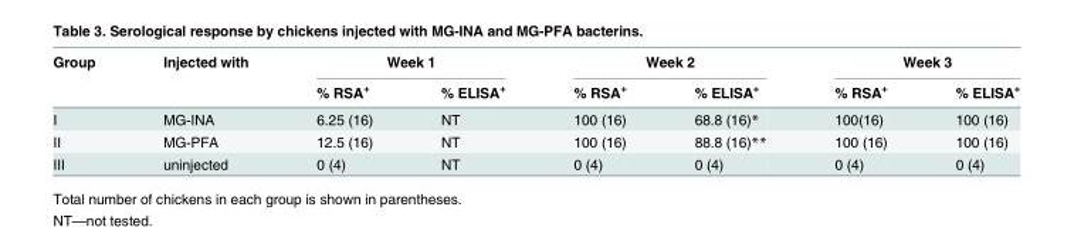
<table><thead><tr><td rowspan="2">Group</td><td rowspan="2">Injected with</td><td colspan="2">Week 1</td><td colspan="2">Week 2</td><td colspan="2">Week 3</td></tr><tr><td>% RSA<sup>+</sup></td><td>% ELISA<sup>+</sup></td><td>% RSA<sup>+</sup></td><td>% ELISA<sup>+</sup></td><td>% RSA<sup>+</sup></td><td>% ELISA<sup>+</sup></td></tr></thead><tbody><tr><td>I</td><td>MG-INA</td><td>6.25 (16)</td><td>NT</td><td>100 (16)</td><td>68.8 (16)*</td><td>100(16)</td><td>100 (16)</td></tr><tr><td>II</td><td>MG-PFA</td><td>12.5 (16)</td><td>NT</td><td>100 (16)</td><td>88.8 (16)**</td><td>100 (16)</td><td>100 (16)</td></tr><tr><td>III</td><td>uninjected</td><td>0 (4)</td><td>NT</td><td>0 (4)</td><td>0 (4)</td><td>0 (4)</td><td>0 (4)</td></tr></tbody></table>